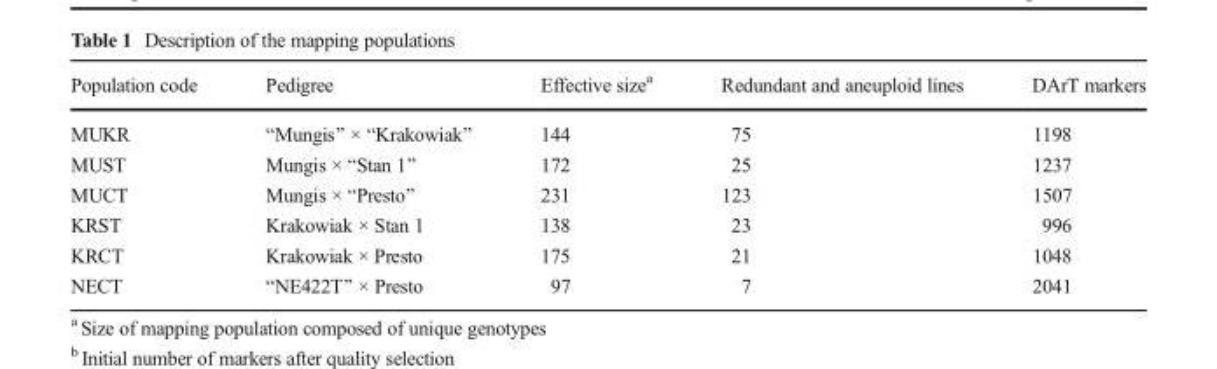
<table><thead><tr><td>Population code</td><td>Pedigree</td><td>Effective size<sup>a</sup></td><td>Redundant and aneuploid lines</td><td>DArT markers</td></tr></thead><tbody><tr><td>MUKR</td><td>“Mungis” × “Krakowiak”</td><td>144</td><td>75</td><td>1198</td></tr><tr><td>MUST</td><td>Mungis × “Stan 1”</td><td>172</td><td>25</td><td>1237</td></tr><tr><td>MUCT</td><td>Mungis × “Presto”</td><td>231</td><td>123</td><td>1507</td></tr><tr><td>KRST</td><td>Krakowiak × Stan 1</td><td>138</td><td>23</td><td>996</td></tr><tr><td>KRCT</td><td>Krakowiak × Presto</td><td>175</td><td>21</td><td>1048</td></tr><tr><td>NECT</td><td>“NE422T” × Presto</td><td>97</td><td>7</td><td>2041</td></tr></tbody></table>